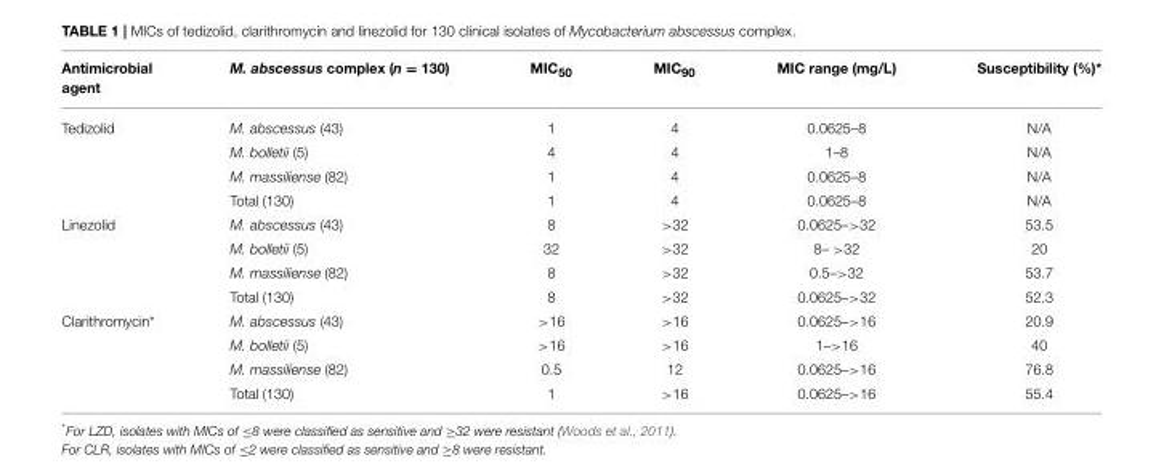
<table><thead><tr><td>Antimicrobial agent</td><td>M. abscessus complex (n = 130)</td><td>MIC<sub>50</sub></td><td>MIC<sub>90</sub></td><td>MIC range (mg/L)</td><td>Susceptibility (%)*</td></tr></thead><tbody><tr><td rowspan="4">Tedizolid</td><td>M. abscessus (43)</td><td>1</td><td>4</td><td>0.0625–8</td><td>N/A</td></tr><tr><td>M. bolletii (5)</td><td>4</td><td>4</td><td>1–8</td><td>N/A</td></tr><tr><td>M. massiliense (82)</td><td>1</td><td>4</td><td>0.0625–8</td><td>N/A</td></tr><tr><td>Total (130)</td><td>1</td><td>4</td><td>0.0625–8</td><td>N/A</td></tr><tr><td rowspan="4">Linezolid</td><td>M. abscessus (43)</td><td>8</td><td>&gt;32</td><td>0.0625–&gt;32</td><td>53.5</td></tr><tr><td>M. bolletii (5)</td><td>32</td><td>&gt;32</td><td>8– &gt;32</td><td>20</td></tr><tr><td>M. massiliense (82)</td><td>8</td><td>&gt;32</td><td>0.5–&gt;32</td><td>53.7</td></tr><tr><td>Total (130)</td><td>8</td><td>&gt;32</td><td>0.0625–&gt;32</td><td>52.3</td></tr><tr><td rowspan="4">Clarithromycin*</td><td>M. abscessus (43)</td><td>&gt;16</td><td>&gt;16</td><td>0.0625–&gt;16</td><td>20.9</td></tr><tr><td>M. bolletii (5)</td><td>&gt;16</td><td>&gt;16</td><td>1–&gt;16</td><td>40</td></tr><tr><td>M. massiliense (82)</td><td>0.5</td><td>12</td><td>0.0625–&gt;16</td><td>76.8</td></tr><tr><td>Total (130)</td><td>1</td><td>&gt;16</td><td>0.0625–&gt;16</td><td>55.4</td></tr></tbody></table>